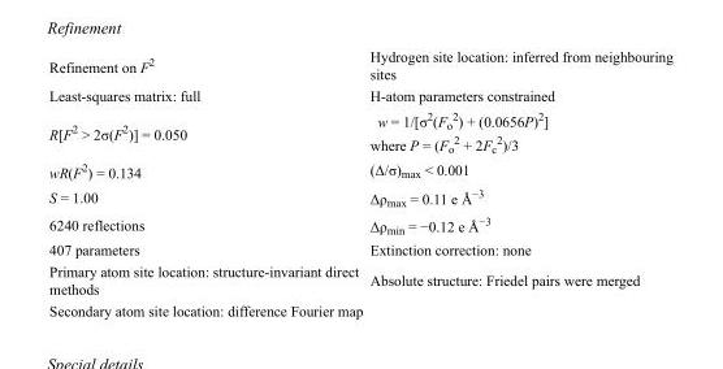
<table><tbody><tr><td>Refinement on F<sup>2</sup></td><td>Hydrogen site location: inferred from neighbouring sites</td></tr><tr><td>Least-squares matrix: full</td><td>H-atom parameters constrained</td></tr><tr><td>R[F<sup>2</sup> &gt; 2σ(F<sup>2</sup>)] = 0.050</td><td>w = 1/[σ<sup>2</sup>(F<sub>o</sub> <sup>2</sup>) + (0.0656P)<sup>2</sup>] where P = (F<sub>o</sub> <sup>2</sup> + 2F<sub>c</sub> <sup>2</sup>)/3</td></tr><tr><td>wR(F<sup>2</sup>) = 0.134</td><td>(Δ/σ)<sub>max</sub> &lt; 0.001</td></tr><tr><td>S = 1.00</td><td>Δρ<sub>max</sub> = 0.11 e Å<sup>−3</sup></td></tr><tr><td>6240 reflections</td><td>Δρ<sub>min</sub> = −0.12 e Å<sup>−3</sup></td></tr><tr><td>407 parameters</td><td>Extinction correction: none</td></tr><tr><td>Primary atom site location: structure-invariant direct methods</td><td>Absolute structure: Friedel pairs were merged</td></tr><tr><td>Secondary atom site location: difference Fourier map</td><td></td></tr></tbody></table>